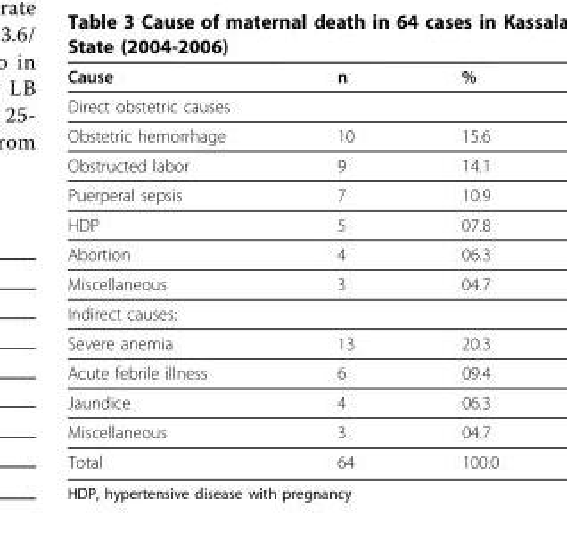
<table><thead><tr><td>Cause</td><td>n</td><td>%</td></tr></thead><tbody><tr><td colspan="3">Direct obstetric causes</td></tr><tr><td>Obstetric hemorrhage</td><td>10</td><td>15.6</td></tr><tr><td>Obstructed labor</td><td>9</td><td>14.1</td></tr><tr><td>Puerperal sepsis</td><td>7</td><td>10.9</td></tr><tr><td>HDP</td><td>5</td><td>07.8</td></tr><tr><td>Abortion</td><td>4</td><td>06.3</td></tr><tr><td>Miscellaneous</td><td>3</td><td>04.7</td></tr><tr><td colspan="3">Indirect causes:</td></tr><tr><td>Severe anemia</td><td>13</td><td>20.3</td></tr><tr><td>Acute febrile illness</td><td>6</td><td>09.4</td></tr><tr><td>Jaundice</td><td>4</td><td>06.3</td></tr><tr><td>Miscellaneous</td><td>3</td><td>04.7</td></tr><tr><td>Total</td><td>64</td><td>100.0</td></tr></tbody></table>